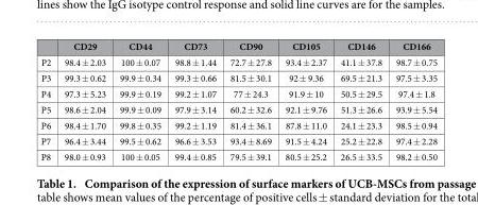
<table><thead><tr><td></td><td>CD29</td><td>CD44</td><td>CD73</td><td>CD90</td><td>CD105</td><td>CD146</td><td>CD166</td></tr></thead><tbody><tr><td>P2</td><td>98.4 ± 2.03</td><td>100 ± 0.07</td><td>98.8 ± 1.44</td><td>72.7 ± 27.8</td><td>93.4 ± 2.37</td><td>41.1 ± 37.8</td><td>98.7 ± 0.75</td></tr><tr><td>P3</td><td>99.3 ± 0.62</td><td>99.9 ± 0.34</td><td>99.3 ± 0.66</td><td>81.5 ± 30.1</td><td>92 ± 9.36</td><td>69.5 ± 21.3</td><td>97.5 ± 3.35</td></tr><tr><td>P4</td><td>97.3 ± 5.23</td><td>99.9 ± 0.19</td><td>99.2 ± 1.07</td><td>77 ± 24.3</td><td>91.9 ± 10</td><td>50.5 ± 29.5</td><td>97.4 ± 1.8</td></tr><tr><td>P5</td><td>98.6 ± 2.04</td><td>99.9 ± 0.09</td><td>97.9 ± 3.14</td><td>60.2 ± 32.6</td><td>92.1 ± 9.76</td><td>51.3 ± 26.6</td><td>93.9 ± 5.54</td></tr><tr><td>P6</td><td>98.4 ± 1.70</td><td>99.8 ± 0.35</td><td>99.2 ± 1.19</td><td>81.4 ± 36.1</td><td>87.8 ± 11.0</td><td>24.1 ± 23.3</td><td>98.5 ± 0.94</td></tr><tr><td>P7</td><td>96.4 ± 3.44</td><td>99.5 ± 0.62</td><td>96.6 ± 3.53</td><td>93.4 ± 8.69</td><td>91.5 ± 4.24</td><td>25.2 ± 22.8</td><td>97.4 ± 2.28</td></tr><tr><td>P8</td><td>98.0 ± 0.93</td><td>100 ± 0.05</td><td>99.4 ± 0.85</td><td>79.5 ± 39.1</td><td>80.5 ± 25.2</td><td>26.5 ± 33.5</td><td>98.2 ± 0.50</td></tr></tbody></table>